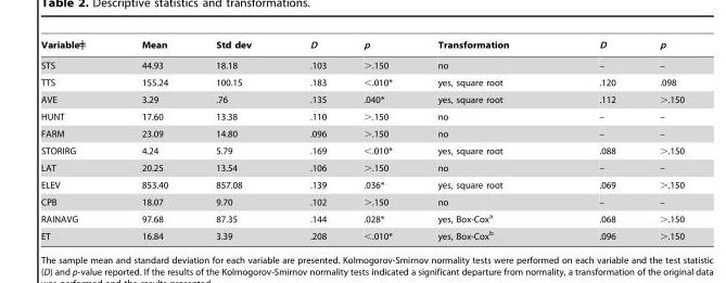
<table><thead><tr><td>Variable</td><td>Mean</td><td>Std dev</td><td>D</td><td>p</td><td>Transformation</td><td>D</td><td>p</td></tr></thead><tbody><tr><td>STS</td><td>44.93</td><td>18.18</td><td>.103</td><td>&gt;.150</td><td>no</td><td>–</td><td>–</td></tr><tr><td>TTS</td><td>155.24</td><td>100.15</td><td>.183</td><td>&lt;.010*</td><td>yes, square root</td><td>.120</td><td>.098</td></tr><tr><td>AVE</td><td>3.29</td><td>.76</td><td>.135</td><td>.040*</td><td>yes, square root</td><td>.112</td><td>&gt;.150</td></tr><tr><td>HUNT</td><td>17.60</td><td>13.38</td><td>.110</td><td>&gt;.150</td><td>no</td><td>–</td><td>–</td></tr><tr><td>FARM</td><td>23.09</td><td>14.80</td><td>.096</td><td>&gt;.150</td><td>no</td><td>–</td><td>–</td></tr><tr><td>STORIRG</td><td>4.24</td><td>5.79</td><td>.169</td><td>&lt;.010*</td><td>yes, square root</td><td>.088</td><td>&gt;.150</td></tr><tr><td>LAT</td><td>20.25</td><td>13.54</td><td>.106</td><td>&gt;.150</td><td>no</td><td>–</td><td>–</td></tr><tr><td>ELEV</td><td>853.40</td><td>857.08</td><td>.139</td><td>.036*</td><td>yes, square root</td><td>.069</td><td>&gt;.150</td></tr><tr><td>CPB</td><td>18.07</td><td>9.70</td><td>.102</td><td>&gt;.150</td><td>no</td><td>–</td><td>–</td></tr><tr><td>RAINAVG</td><td>97.68</td><td>87.35</td><td>.144</td><td>.028*</td><td>yes, Box-Cox<sup>a</sup></td><td>.068</td><td>&gt;.150</td></tr><tr><td>ET</td><td>16.84</td><td>3.39</td><td>.208</td><td>&lt;.010*</td><td>yes, Box-Cox<sup>b</sup></td><td>.096</td><td>&gt;.150</td></tr></tbody></table>